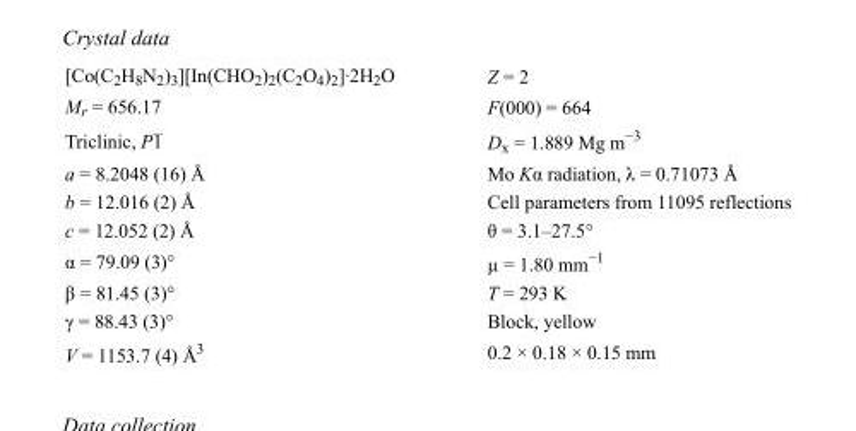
<table><tbody><tr><td>[Co(C<sub>2</sub>H<sub>8</sub>N<sub>2</sub>)<sub>3</sub>][In(CHO<sub>2</sub>)<sub>2</sub>(C<sub>2</sub>O<sub>4</sub>)<sub>2</sub>]·2H<sub>2</sub>O</td><td>Z = 2</td></tr><tr><td>M<sub>r</sub> = 656.17</td><td>F(000) = 664</td></tr><tr><td>Triclinic, P1</td><td>D<sub>x</sub> = 1.889 Mg m<sup>−3</sup></td></tr><tr><td>a = 8.2048 (16) Å</td><td>Mo Kα radiation, λ = 0.71073 Å</td></tr><tr><td>b = 12.016 (2) Å</td><td>Cell parameters from 11095 reflections</td></tr><tr><td>c = 12.052 (2) Å</td><td>θ = 3.1–27.5°</td></tr><tr><td>α = 79.09 (3)°</td><td>µ = 1.80 mm<sup>−1</sup></td></tr><tr><td>β = 81.45 (3)°</td><td>T = 293 K</td></tr><tr><td>γ = 88.43 (3)°</td><td>Block, yellow</td></tr><tr><td>V = 1153.7 (4) Å<sup>3</sup></td><td>0.2 × 0.18 × 0.15 mm</td></tr></tbody></table>